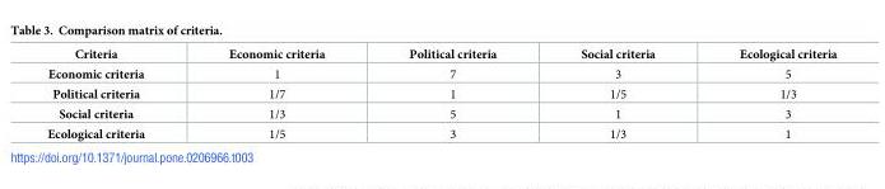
<table><thead><tr><td>Criteria</td><td>Economic criteria</td><td>Political criteria</td><td>Social criteria</td><td>Ecological criteria</td></tr></thead><tbody><tr><td>Economic criteria</td><td>1</td><td>7</td><td>3</td><td>5</td></tr><tr><td>Political criteria</td><td>1/7</td><td>1</td><td>1/5</td><td>1/3</td></tr><tr><td>Social criteria</td><td>1/3</td><td>5</td><td>1</td><td>3</td></tr><tr><td>Ecological criteria</td><td>1/5</td><td>3</td><td>1/3</td><td>1</td></tr></tbody></table>